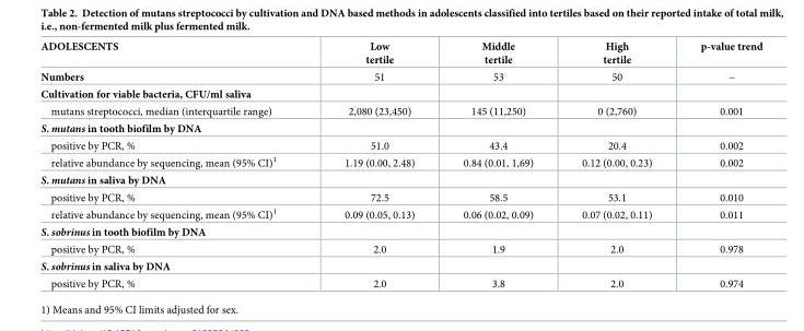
<table><thead><tr><td>ADOLESCENTS</td><td>Low tertile</td><td>Middle tertile</td><td>High tertile</td><td>p-value trend</td></tr></thead><tbody><tr><td>Numbers</td><td>51</td><td>53</td><td>50</td><td>−</td></tr><tr><td colspan="5">Cultivation for viable bacteria, CFU/ml saliva</td></tr><tr><td>mutans streptococci, median (interquartile range)</td><td>2,080 (23,450)</td><td>145 (11,250)</td><td>0 (2,760)</td><td>0.001</td></tr><tr><td colspan="5">S. mutans in tooth biofilm by DNA</td></tr><tr><td>positive by PCR, %</td><td>51.0</td><td>43.4</td><td>20.4</td><td>0.002</td></tr><tr><td>relative abundance by sequencing, mean (95% CI)<sup>1</sup></td><td>1.19 (0.00, 2.48)</td><td>0.84 (0.01, 1,69)</td><td>0.12 (0.00, 0.23)</td><td>0.002</td></tr><tr><td colspan="5">S. mutans in saliva by DNA</td></tr><tr><td>positive by PCR, %</td><td>72.5</td><td>58.5</td><td>53.1</td><td>0.010</td></tr><tr><td>relative abundance by sequencing, mean (95% CI)<sup>1</sup></td><td>0.09 (0.05, 0.13)</td><td>0.06 (0.02, 0.09)</td><td>0.07 (0.02, 0.11)</td><td>0.011</td></tr><tr><td colspan="5">S. sobrinus in tooth biofilm by DNA</td></tr><tr><td>positive by PCR, %</td><td>2.0</td><td>1.9</td><td>2.0</td><td>0.978</td></tr><tr><td colspan="5">S. sobrinus in saliva by DNA</td></tr><tr><td>positive by PCR, %</td><td>2.0</td><td>3.8</td><td>2.0</td><td>0.974</td></tr></tbody></table>